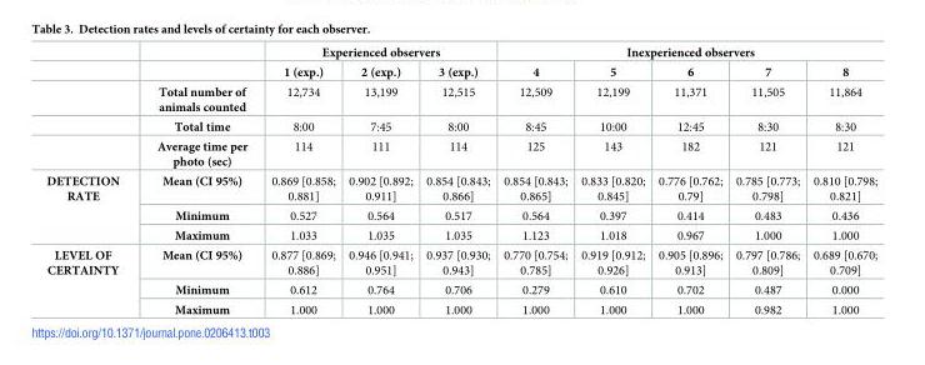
<table><thead><tr><td rowspan="2"></td><td rowspan="2"></td><td colspan="3">Experienced observers</td><td colspan="5">Inexperienced observers</td></tr><tr><td>1 (exp.)</td><td>2 (exp.)</td><td>3 (exp.)</td><td>4</td><td>5</td><td>6</td><td>7</td><td>8</td></tr></thead><tbody><tr><td></td><td>Total number of animals counted</td><td>12,734</td><td>13,199</td><td>12,515</td><td>12,509</td><td>12,199</td><td>11,371</td><td>11,505</td><td>11,864</td></tr><tr><td></td><td>Total time</td><td>8:00</td><td>7:45</td><td>8:00</td><td>8:45</td><td>10:00</td><td>12:45</td><td>8:30</td><td>8:30</td></tr><tr><td></td><td>Average time per photo (sec)</td><td>114</td><td>111</td><td>114</td><td>125</td><td>143</td><td>182</td><td>121</td><td>121</td></tr><tr><td rowspan="3">DETECTION RATE</td><td>Mean (CI 95%)</td><td>0.869 [0.858; 0.881]</td><td>0.902 [0.892; 0.911]</td><td>0.854 [0.843; 0.866]</td><td>0.854 [0.843; 0.865]</td><td>0.833 [0.820; 0.845]</td><td>0.776 [0.762; 0.79]</td><td>0.785 [0.773; 0.798]</td><td>0.810 [0.798; 0.821]</td></tr><tr><td>Minimum</td><td>0.527</td><td>0.564</td><td>0.517</td><td>0.564</td><td>0.397</td><td>0.414</td><td>0.483</td><td>0.436</td></tr><tr><td>Maximum</td><td>1.033</td><td>1.035</td><td>1.035</td><td>1.123</td><td>1.018</td><td>0.967</td><td>1.000</td><td>1.000</td></tr><tr><td rowspan="3">LEVEL OF CERTAINTY</td><td>Mean (CI 95%)</td><td>0.877 [0.869; 0.886]</td><td>0.946 [0.941; 0.951]</td><td>0.937 [0.930; 0.943]</td><td>0.770 [0.754; 0.785]</td><td>0.919 [0.912; 0.926]</td><td>0.905 [0.896; 0.913]</td><td>0.797 [0.786; 0.809]</td><td>0.689 [0.670; 0.709]</td></tr><tr><td>Minimum</td><td>0.612</td><td>0.764</td><td>0.706</td><td>0.279</td><td>0.610</td><td>0.702</td><td>0.487</td><td>0.000</td></tr><tr><td>Maximum</td><td>1.000</td><td>1.000</td><td>1.000</td><td>1.000</td><td>1.000</td><td>1.000</td><td>0.982</td><td>1.000</td></tr></tbody></table>